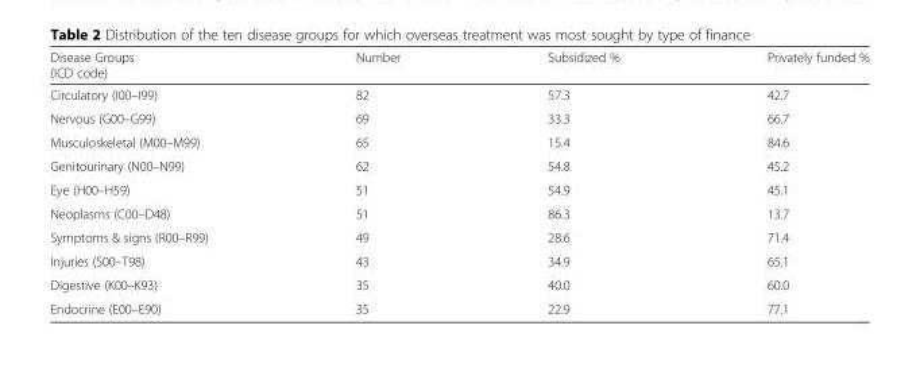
<table><thead><tr><td>Disease Groups (ICD code)</td><td>Number</td><td>Subsidized %</td><td>Privately funded %</td></tr></thead><tbody><tr><td>Circulatory (I00–I99)</td><td>82</td><td>57.3</td><td>42.7</td></tr><tr><td>Nervous (G00–G99)</td><td>69</td><td>33.3</td><td>66.7</td></tr><tr><td>Musculoskeletal (M00–M99)</td><td>65</td><td>15.4</td><td>84.6</td></tr><tr><td>Genitourinary (N00–N99)</td><td>62</td><td>54.8</td><td>45.2</td></tr><tr><td>Eye (H00–H59)</td><td>51</td><td>54.9</td><td>45.1</td></tr><tr><td>Neoplasms (C00–D48)</td><td>51</td><td>86.3</td><td>13.7</td></tr><tr><td>Symptoms &amp; signs (R00–R99)</td><td>49</td><td>28.6</td><td>71.4</td></tr><tr><td>Injuries (S00–T98)</td><td>43</td><td>34.9</td><td>65.1</td></tr><tr><td>Digestive (K00–K93)</td><td>35</td><td>40.0</td><td>60.0</td></tr><tr><td>Endocrine (E00–E90)</td><td>35</td><td>22.9</td><td>77.1</td></tr></tbody></table>